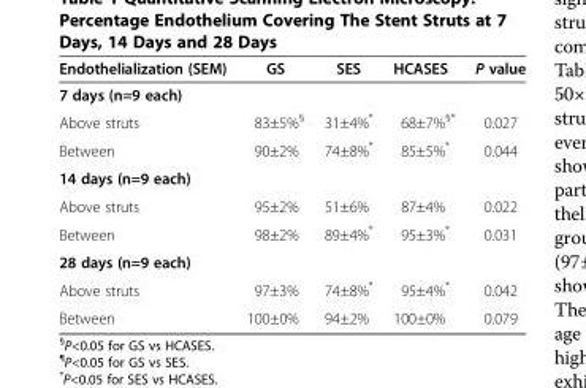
<table><thead><tr><td>Endothelialization (SEM)</td><td>GS</td><td>SES</td><td>HCASES</td><td>P value</td></tr></thead><tbody><tr><td colspan="5">7 days (n=9 each)</td></tr><tr><td>Above struts</td><td>83±5%<sup>§</sup></td><td>31±4%*</td><td>68±7%<sup>§*</sup></td><td>0.027</td></tr><tr><td>Between</td><td>90±2%</td><td>74±8%*</td><td>85±5%*</td><td>0.044</td></tr><tr><td colspan="5">14 days (n=9 each)</td></tr><tr><td>Above struts</td><td>95±2%</td><td>51±6%</td><td>87±4%</td><td>0.022</td></tr><tr><td>Between</td><td>98±2%</td><td>89±4%*</td><td>95±3%*</td><td>0.031</td></tr><tr><td colspan="5">28 days (n=9 each)</td></tr><tr><td>Above struts</td><td>97±3%</td><td>74±8%*</td><td>95±4%*</td><td>0.042</td></tr><tr><td>Between</td><td>100±0%</td><td>94±2%</td><td>100±0%</td><td>0.079</td></tr></tbody></table>